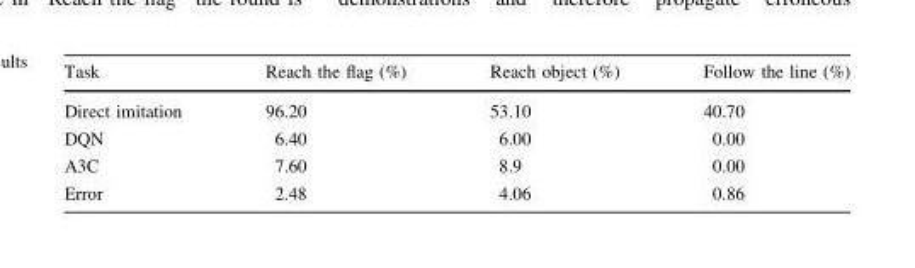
<table><thead><tr><td>Task</td><td>Reach the flag (%)</td><td>Reach object (%)</td><td>Follow the line (%)</td></tr></thead><tbody><tr><td>Direct imitation</td><td>96.20</td><td>53.10</td><td>40.70</td></tr><tr><td>DQN</td><td>6.40</td><td>6.00</td><td>0.00</td></tr><tr><td>A3C</td><td>7.60</td><td>8.9</td><td>0.00</td></tr><tr><td>Error</td><td>2.48</td><td>4.06</td><td>0.86</td></tr></tbody></table>